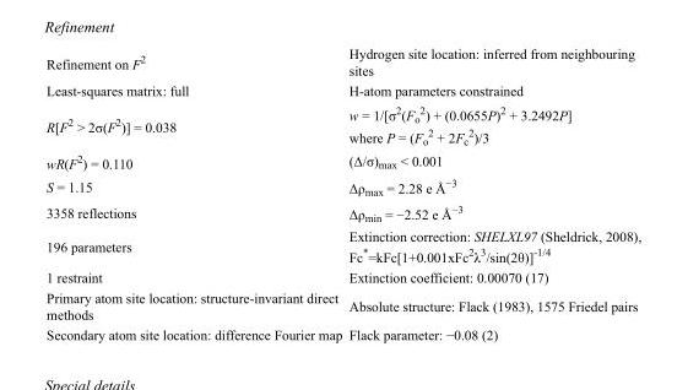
<table><tbody><tr><td>Refinement on F<sup>2</sup></td><td>Hydrogen site location: inferred from neighbouring sites</td></tr><tr><td>Least-squares matrix: full</td><td>H-atom parameters constrained</td></tr><tr><td>R[F<sup>2</sup> &gt; 2σ(F<sup>2</sup>)] = 0.038</td><td>w = 1/[σ<sup>2</sup>(F<sub>o</sub> <sup>2</sup>) + (0.0655P)<sup>2</sup> + 3.2492P] where P = (F<sub>o</sub> <sup>2</sup> + 2F<sub>c</sub> <sup>2</sup>)/3</td></tr><tr><td>wR(F<sup>2</sup>) = 0.110</td><td>(Δ/σ)<sub>max</sub> &lt; 0.001</td></tr><tr><td>S = 1.15</td><td>Δρ<sub>max</sub> = 2.28 e Å<sup>−3</sup></td></tr><tr><td>3358 reflections</td><td>Δρ<sub>min</sub> = −2.52 e Å<sup>−3</sup></td></tr><tr><td>196 parameters</td><td>Extinction correction: SHELXL97 (Sheldrick, 2008), Fc*=kFc[1+0.001xFc<sup>2</sup>λ<sup>3</sup>/sin(2θ)]<sup>-1/4</sup></td></tr><tr><td>1 restraint</td><td>Extinction coefficient: 0.00070 (17)</td></tr><tr><td>Primary atom site location: structure-invariant direct methods</td><td>Absolute structure: Flack (1983), 1575 Friedel pairs</td></tr><tr><td>Secondary atom site location: difference Fourier map</td><td>Flack parameter: −0.08 (2)</td></tr></tbody></table>